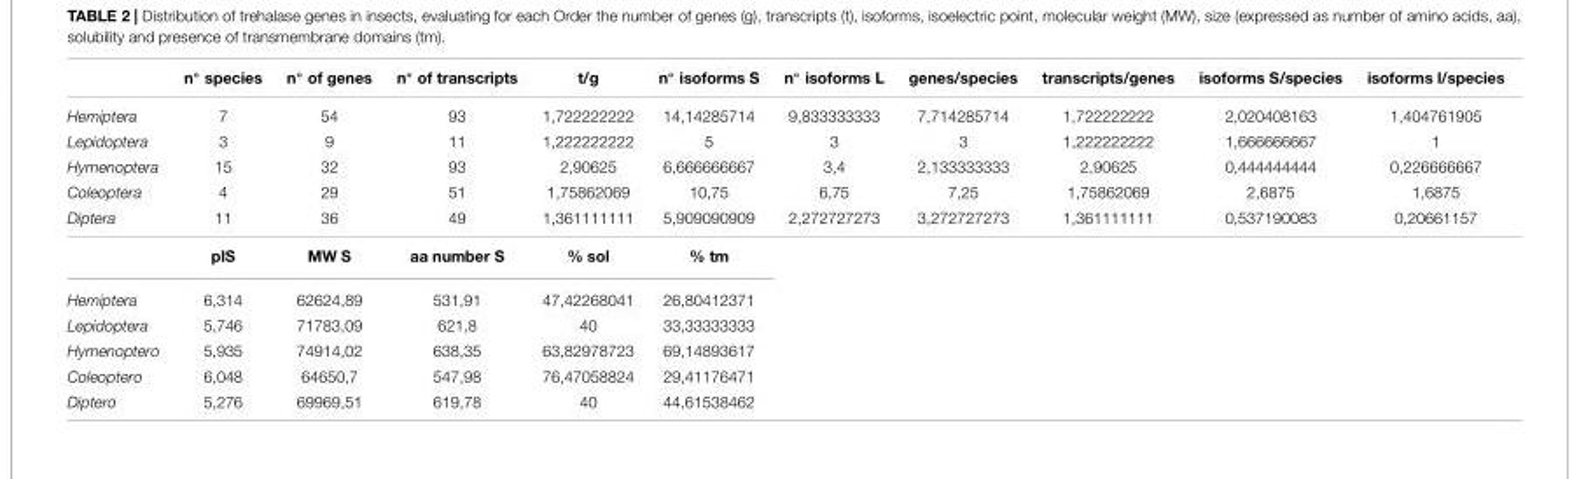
<table><thead><tr><td></td><td>n◦ species</td><td>n◦ of genes</td><td>n◦ of transcripts</td><td>t/g</td><td>n◦ isoforms S</td><td>n◦ isoforms L</td><td>genes/species</td><td>transcripts/genes</td><td>isoforms S/species</td><td>isoforms l/species</td></tr></thead><tbody><tr><td>Hemiptera</td><td>7</td><td>54</td><td>93</td><td>1,722222222</td><td>14,14285714</td><td>9,833333333</td><td>7,714285714</td><td>1,722222222</td><td>2,020408163</td><td>1,404761905</td></tr><tr><td>Lepidoptera</td><td>3</td><td>9</td><td>11</td><td>1,222222222</td><td>5</td><td>3</td><td>3</td><td>1,222222222</td><td>1,666666667</td><td>1</td></tr><tr><td>Hymenoptera</td><td>15</td><td>32</td><td>93</td><td>2,90625</td><td>6,666666667</td><td>3,4</td><td>2,133333333</td><td>2,90625</td><td>0,444444444</td><td>0,226666667</td></tr><tr><td>Coleoptera</td><td>4</td><td>29</td><td>51</td><td>1,75862069</td><td>10,75</td><td>6,75</td><td>7,25</td><td>1,75862069</td><td>2,6875</td><td>1,6875</td></tr><tr><td rowspan="2">Diptera</td><td>11</td><td>36</td><td>49</td><td>1,361111111</td><td>5,909090909</td><td>2,272727273</td><td>3,272727273</td><td>1,361111111</td><td>0,537190083</td><td>0,20661157</td></tr><tr><td>pIS</td><td>MW S</td><td>aa number S</td><td>% sol</td><td>% tm</td><td></td><td></td><td></td><td></td><td></td></tr><tr><td>Hemiptera</td><td>6,314</td><td>62624,89</td><td>531,91</td><td>47,42268041</td><td>26,80412371</td><td></td><td></td><td></td><td></td><td></td></tr><tr><td>Lepidoptera</td><td>5,746</td><td>71783,09</td><td>621,8</td><td>40</td><td>33,33333333</td><td></td><td></td><td></td><td></td><td></td></tr><tr><td>Hymenoptero</td><td>5,935</td><td>74914,02</td><td>638,35</td><td>63,82978723</td><td>69,14893617</td><td></td><td></td><td></td><td></td><td></td></tr><tr><td>Coleoptero</td><td>6,048</td><td>64650,7</td><td>547,98</td><td>76,47058824</td><td>29,41176471</td><td></td><td></td><td></td><td></td><td></td></tr><tr><td>Diptero</td><td>5,276</td><td>69969,51</td><td>619,78</td><td>40</td><td>44,61538462</td><td></td><td></td><td></td><td></td><td></td></tr></tbody></table>